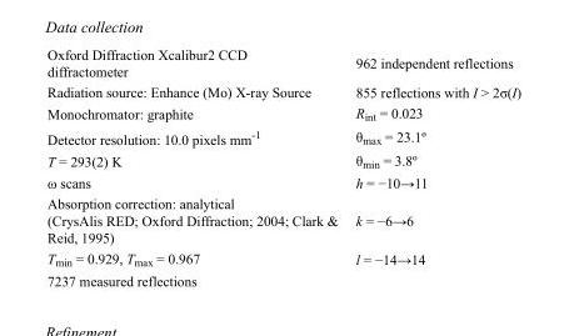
<table><tbody><tr><td>Oxford Diffraction Xcalibur2 CCD diffractometer</td><td>962 independent reflections</td></tr><tr><td>Radiation source: Enhance (Mo) X-ray Source</td><td>855 reflections with I &gt; 2σ(I)</td></tr><tr><td>Monochromator: graphite</td><td>R<sub>int</sub> = 0.023</td></tr><tr><td>Detector resolution: 10.0 pixels mm<sup>-1</sup></td><td>θ<sub>max</sub> = 23.1º</td></tr><tr><td>T = 293(2) K</td><td>θ<sub>min</sub> = 3.8º</td></tr><tr><td>ω scans</td><td>h = −10→11</td></tr><tr><td>Absorption correction: analytical (CrysAlis RED; Oxford Diffraction; 2004; Clark &amp; Reid, 1995)</td><td>k = −6→6</td></tr><tr><td>T<sub>min</sub> = 0.929, T<sub>max</sub> = 0.967</td><td>l = −14→14</td></tr><tr><td>7237 measured reflections</td><td></td></tr></tbody></table>